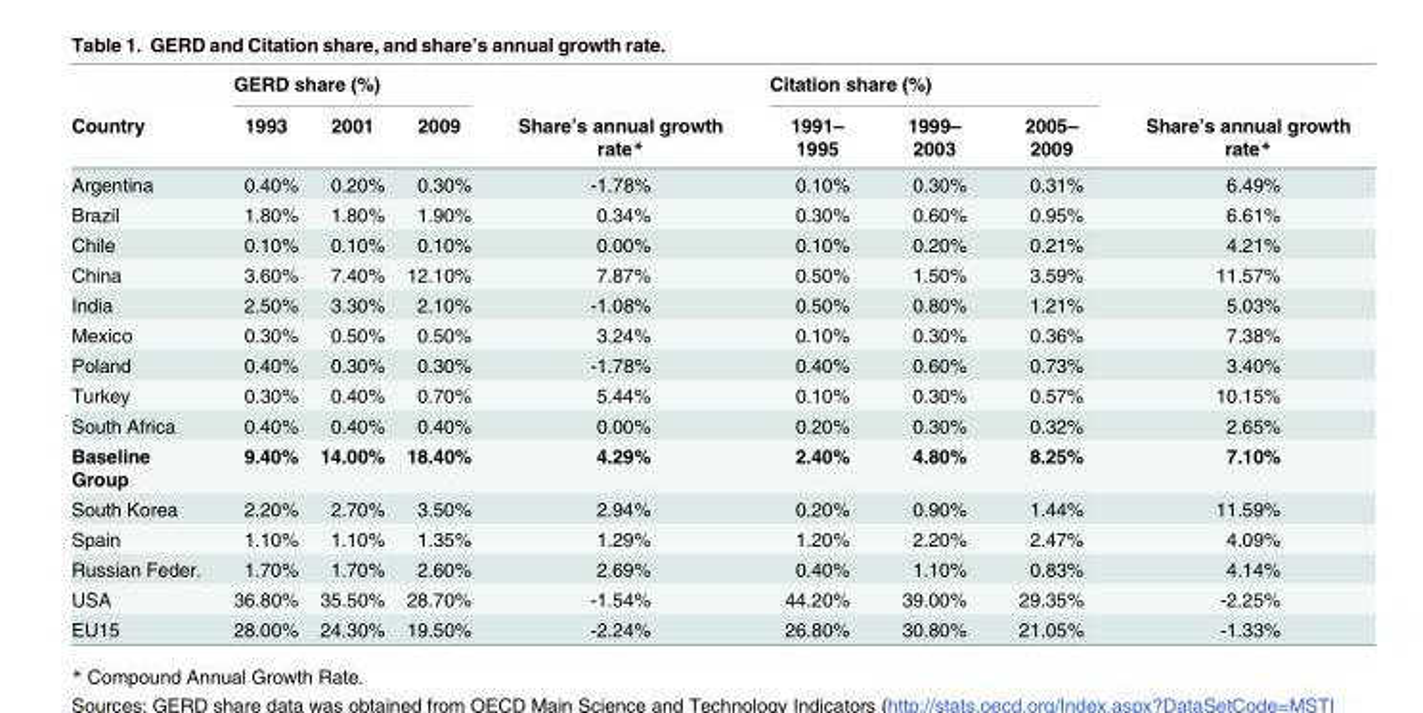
<table><thead><tr><td rowspan="2">Country</td><td colspan="3">GERD share (%)</td><td rowspan="2">Share’s annual growth rate*</td><td colspan="3">Citation share (%)</td><td rowspan="2">Share’s annual growth rate*</td></tr><tr><td>1993</td><td>2001</td><td>2009</td><td>1991– 1995</td><td>1999– 2003</td><td>2005– 2009</td></tr></thead><tbody><tr><td>Argentina</td><td>0.40%</td><td>0.20%</td><td>0.30%</td><td>-1.78%</td><td>0.10%</td><td>0.30%</td><td>0.31%</td><td>6.49%</td></tr><tr><td>Brazil</td><td>1.80%</td><td>1.80%</td><td>1.90%</td><td>0.34%</td><td>0.30%</td><td>0.60%</td><td>0.95%</td><td>6.61%</td></tr><tr><td>Chile</td><td>0.10%</td><td>0.10%</td><td>0.10%</td><td>0.00%</td><td>0.10%</td><td>0.20%</td><td>0.21%</td><td>4.21%</td></tr><tr><td>China</td><td>3.60%</td><td>7.40%</td><td>12.10%</td><td>7.87%</td><td>0.50%</td><td>1.50%</td><td>3.59%</td><td>11.57%</td></tr><tr><td>India</td><td>2.50%</td><td>3.30%</td><td>2.10%</td><td>-1.08%</td><td>0.50%</td><td>0.80%</td><td>1.21%</td><td>5.03%</td></tr><tr><td>Mexico</td><td>0.30%</td><td>0.50%</td><td>0.50%</td><td>3.24%</td><td>0.10%</td><td>0.30%</td><td>0.36%</td><td>7.38%</td></tr><tr><td>Poland</td><td>0.40%</td><td>0.30%</td><td>0.30%</td><td>-1.78%</td><td>0.40%</td><td>0.60%</td><td>0.73%</td><td>3.40%</td></tr><tr><td>Turkey</td><td>0.30%</td><td>0.40%</td><td>0.70%</td><td>5.44%</td><td>0.10%</td><td>0.30%</td><td>0.57%</td><td>10.15%</td></tr><tr><td>South Africa</td><td>0.40%</td><td>0.40%</td><td>0.40%</td><td>0.00%</td><td>0.20%</td><td>0.30%</td><td>0.32%</td><td>2.65%</td></tr><tr><td>Baseline Group</td><td>9.40%</td><td>14.00%</td><td>18.40%</td><td>4.29%</td><td>2.40%</td><td>4.80%</td><td>8.25%</td><td>7.10%</td></tr><tr><td>South Korea</td><td>2.20%</td><td>2.70%</td><td>3.50%</td><td>2.94%</td><td>0.20%</td><td>0.90%</td><td>1.44%</td><td>11.59%</td></tr><tr><td>Spain</td><td>1.10%</td><td>1.10%</td><td>1.35%</td><td>1.29%</td><td>1.20%</td><td>2.20%</td><td>2.47%</td><td>4.09%</td></tr><tr><td>Russian Feder.</td><td>1.70%</td><td>1.70%</td><td>2.60%</td><td>2.69%</td><td>0.40%</td><td>1.10%</td><td>0.83%</td><td>4.14%</td></tr><tr><td>USA</td><td>36.80%</td><td>35.50%</td><td>28.70%</td><td>-1.54%</td><td>44.20%</td><td>39.00%</td><td>29.35%</td><td>-2.25%</td></tr><tr><td>EU15</td><td>28.00%</td><td>24.30%</td><td>19.50%</td><td>-2.24%</td><td>26.80%</td><td>30.80%</td><td>21.05%</td><td>-1.33%</td></tr></tbody></table>